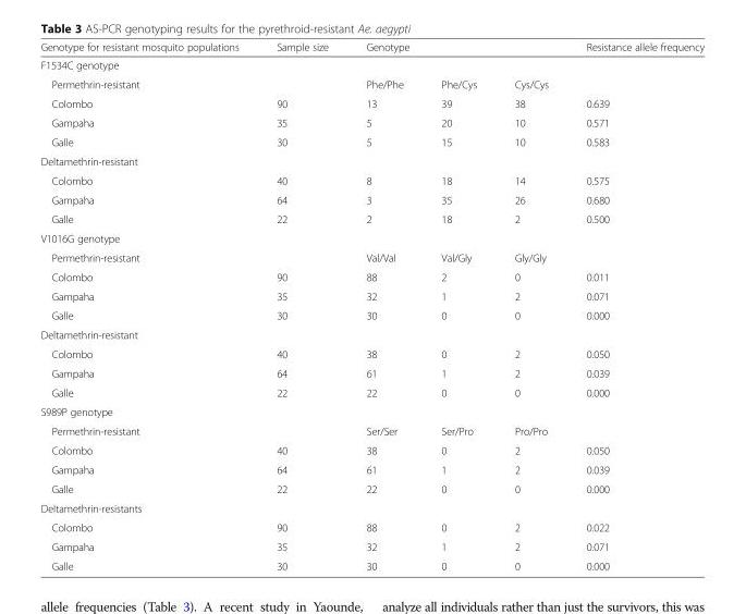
<table><thead><tr><td>Genotype for resistant mosquito populations</td><td>Sample size</td><td colspan="3">Genotype</td><td>Resistance allele frequency</td></tr><tr><td colspan="6">F1534C genotype</td></tr><tr><td>Permethrin-resistant</td><td></td><td>Phe/Phe</td><td>Phe/Cys</td><td>Cys/Cys</td><td></td></tr></thead><tbody><tr><td>Colombo</td><td>90</td><td>13</td><td>39</td><td>38</td><td>0.639</td></tr><tr><td>Gampaha</td><td>35</td><td>5</td><td>20</td><td>10</td><td>0.571</td></tr><tr><td>Galle</td><td>30</td><td>5</td><td>15</td><td>10</td><td>0.583</td></tr><tr><td colspan="6">Deltamethrin-resistant</td></tr><tr><td>Colombo</td><td>40</td><td>8</td><td>18</td><td>14</td><td>0.575</td></tr><tr><td>Gampaha</td><td>64</td><td>3</td><td>35</td><td>26</td><td>0.680</td></tr><tr><td>Galle</td><td>22</td><td>2</td><td>18</td><td>2</td><td>0.500</td></tr><tr><td colspan="6">V1016G genotype</td></tr><tr><td>Permethrin-resistant</td><td></td><td>Val/Val</td><td>Val/Gly</td><td>Gly/Gly</td><td></td></tr><tr><td>Colombo</td><td>90</td><td>88</td><td>2</td><td>0</td><td>0.011</td></tr><tr><td>Gampaha</td><td>35</td><td>32</td><td>1</td><td>2</td><td>0.071</td></tr><tr><td>Galle</td><td>30</td><td>30</td><td>0</td><td>0</td><td>0.000</td></tr><tr><td colspan="6">Deltamethrin-resistant</td></tr><tr><td>Colombo</td><td>40</td><td>38</td><td>0</td><td>2</td><td>0.050</td></tr><tr><td>Gampaha</td><td>64</td><td>61</td><td>1</td><td>2</td><td>0.039</td></tr><tr><td>Galle</td><td>22</td><td>22</td><td>0</td><td>0</td><td>0.000</td></tr><tr><td colspan="6">S989P genotype</td></tr><tr><td>Permethrin-resistant</td><td></td><td>Ser/Ser</td><td>Ser/Pro</td><td>Pro/Pro</td><td></td></tr><tr><td>Colombo</td><td>40</td><td>38</td><td>0</td><td>2</td><td>0.050</td></tr><tr><td>Gampaha</td><td>64</td><td>61</td><td>1</td><td>2</td><td>0.039</td></tr><tr><td>Galle</td><td>22</td><td>22</td><td>0</td><td>0</td><td>0.000</td></tr><tr><td colspan="6">Deltamethrin-resistants</td></tr><tr><td>Colombo</td><td>90</td><td>88</td><td>0</td><td>2</td><td>0.022</td></tr><tr><td>Gampaha</td><td>35</td><td>32</td><td>1</td><td>2</td><td>0.071</td></tr><tr><td>Galle</td><td>30</td><td>30</td><td>0</td><td>0</td><td>0.000</td></tr></tbody></table>